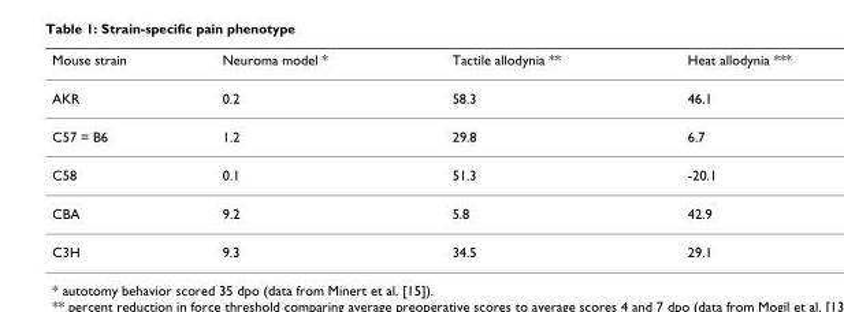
<table><thead><tr><td>Mouse strain</td><td>Neuroma model *</td><td>Tactile allodynia **</td><td>Heat allodynia ***</td></tr></thead><tbody><tr><td>AKR</td><td>0.2</td><td>58.3</td><td>46.1</td></tr><tr><td>C57 = B6</td><td>1.2</td><td>29.8</td><td>6.7</td></tr><tr><td>C58</td><td>0.1</td><td>51.3</td><td>-20.1</td></tr><tr><td>CBA</td><td>9.2</td><td>5.8</td><td>42.9</td></tr><tr><td>C3H</td><td>9.3</td><td>34.5</td><td>29.1</td></tr></tbody></table>